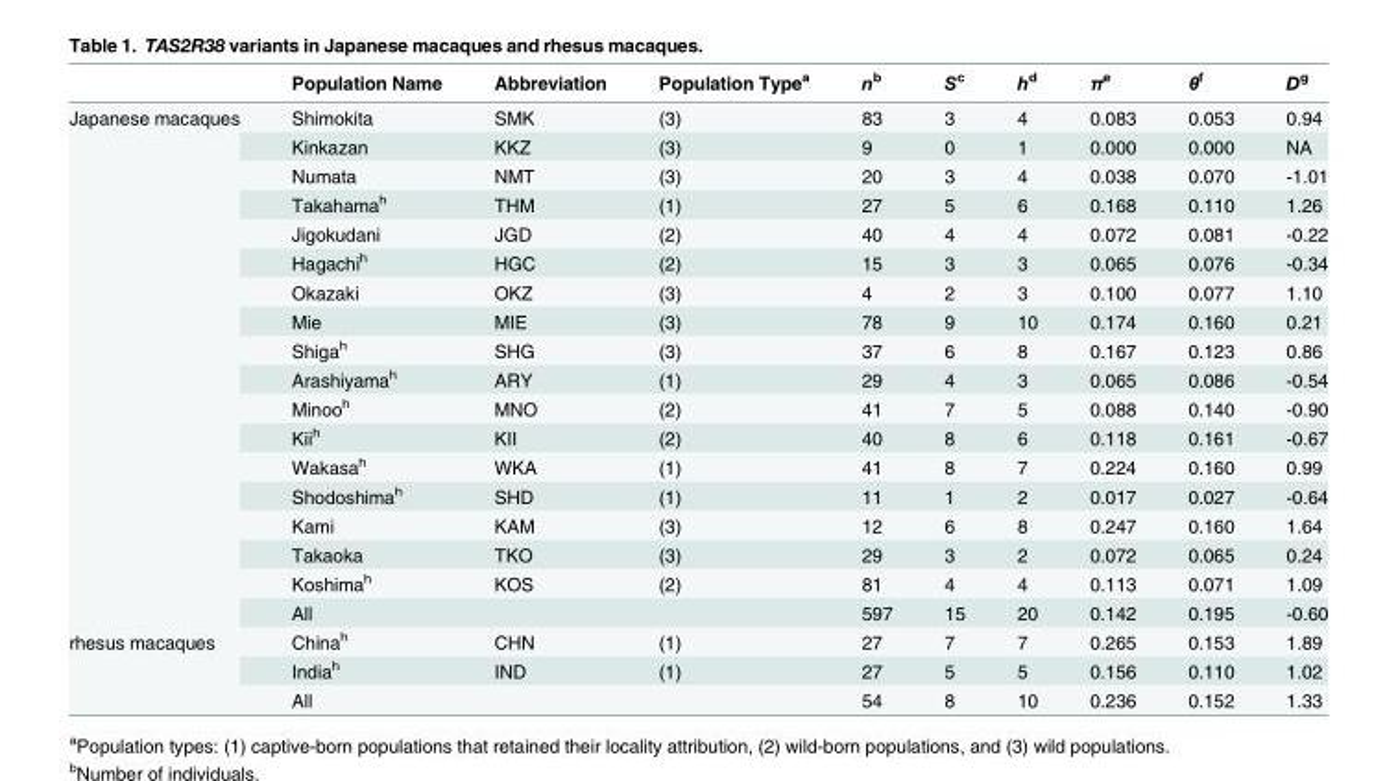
<table><thead><tr><td></td><td>Population Name</td><td>Abbreviation</td><td>Population Type<sup>a</sup></td><td>n<sup>b</sup></td><td>S<sup>c</sup></td><td>h<sup>d</sup></td><td>π<sup>e</sup></td><td>θ<sup>f</sup></td><td>D<sup>g</sup></td></tr></thead><tbody><tr><td rowspan="18">Japanese macaques</td><td>Shimokita</td><td>SMK</td><td>(3)</td><td>83</td><td>3</td><td>4</td><td>0.083</td><td>0.053</td><td>0.94</td></tr><tr><td>Kinkazan</td><td>KKZ</td><td>(3)</td><td>9</td><td>0</td><td>1</td><td>0.000</td><td>0.000</td><td>NA</td></tr><tr><td>Numata</td><td>NMT</td><td>(3)</td><td>20</td><td>3</td><td>4</td><td>0.038</td><td>0.070</td><td>-1.01</td></tr><tr><td>Takahama<sup>h</sup></td><td>THM</td><td>(1)</td><td>27</td><td>5</td><td>6</td><td>0.168</td><td>0.110</td><td>1.26</td></tr><tr><td>Jigokudani</td><td>JGD</td><td>(2)</td><td>40</td><td>4</td><td>4</td><td>0.072</td><td>0.081</td><td>-0.22</td></tr><tr><td>Hagachi<sup>h</sup></td><td>HGC</td><td>(2)</td><td>15</td><td>3</td><td>3</td><td>0.065</td><td>0.076</td><td>-0.34</td></tr><tr><td>Okazaki</td><td>OKZ</td><td>(3)</td><td>4</td><td>2</td><td>3</td><td>0.100</td><td>0.077</td><td>1.10</td></tr><tr><td>Mie</td><td>MIE</td><td>(3)</td><td>78</td><td>9</td><td>10</td><td>0.174</td><td>0.160</td><td>0.21</td></tr><tr><td>Shiga<sup>h</sup></td><td>SHG</td><td>(3)</td><td>37</td><td>6</td><td>8</td><td>0.167</td><td>0.123</td><td>0.86</td></tr><tr><td>Arashiyama<sup>h</sup></td><td>ARY</td><td>(1)</td><td>29</td><td>4</td><td>3</td><td>0.065</td><td>0.086</td><td>-0.54</td></tr><tr><td>Minoo<sup>h</sup></td><td>MNO</td><td>(2)</td><td>41</td><td>7</td><td>5</td><td>0.088</td><td>0.140</td><td>-0.90</td></tr><tr><td>Kii<sup>h</sup></td><td>KII</td><td>(2)</td><td>40</td><td>8</td><td>6</td><td>0.118</td><td>0.161</td><td>-0.67</td></tr><tr><td>Wakasa<sup>h</sup></td><td>WKA</td><td>(1)</td><td>41</td><td>8</td><td>7</td><td>0.224</td><td>0.160</td><td>0.99</td></tr><tr><td>Shodoshima<sup>h</sup></td><td>SHD</td><td>(1)</td><td>11</td><td>1</td><td>2</td><td>0.017</td><td>0.027</td><td>-0.64</td></tr><tr><td>Kami</td><td>KAM</td><td>(3)</td><td>12</td><td>6</td><td>8</td><td>0.247</td><td>0.160</td><td>1.64</td></tr><tr><td>Takaoka</td><td>TKO</td><td>(3)</td><td>29</td><td>3</td><td>2</td><td>0.072</td><td>0.065</td><td>0.24</td></tr><tr><td>Koshima<sup>h</sup></td><td>KOS</td><td>(2)</td><td>81</td><td>4</td><td>4</td><td>0.113</td><td>0.071</td><td>1.09</td></tr><tr><td>All</td><td></td><td></td><td>597</td><td>15</td><td>20</td><td>0.142</td><td>0.195</td><td>-0.60</td></tr><tr><td rowspan="3">rhesus macaques</td><td>China<sup>h</sup></td><td>CHN</td><td>(1)</td><td>27</td><td>7</td><td>7</td><td>0.265</td><td>0.153</td><td>1.89</td></tr><tr><td>India<sup>h</sup></td><td>IND</td><td>(1)</td><td>27</td><td>5</td><td>5</td><td>0.156</td><td>0.110</td><td>1.02</td></tr><tr><td>All</td><td></td><td></td><td>54</td><td>8</td><td>10</td><td>0.236</td><td>0.152</td><td>1.33</td></tr></tbody></table>